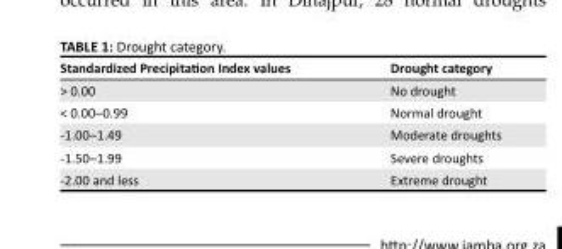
<table><thead><tr><td>Standardized Precipitation Index values</td><td>Drought category</td></tr></thead><tbody><tr><td>&gt; 0.00</td><td>No drought</td></tr><tr><td>&lt; 0.00–0.99</td><td>Normal drought</td></tr><tr><td>-1.00–1.49</td><td>Moderate droughts</td></tr><tr><td>-1.50–1.99</td><td>Severe droughts</td></tr><tr><td>-2.00 and less</td><td>Extreme drought</td></tr></tbody></table>